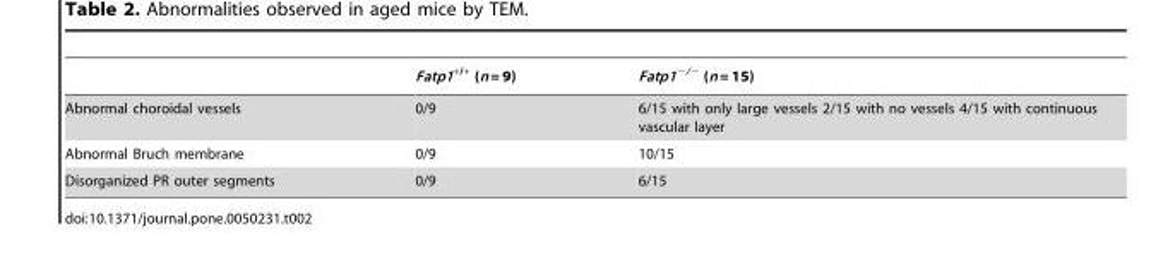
<table><thead><tr><td></td><td>Fatp1<sup>+/+</sup> (n = 9)</td><td>Fatp1<sup>−/−</sup> (n = 15)</td></tr></thead><tbody><tr><td>Abnormal choroidal vessels</td><td>0/9</td><td>6/15 with only large vessels 2/15 with no vessels 4/15 with continuous vascular layer</td></tr><tr><td>Abnormal Bruch membrane</td><td>0/9</td><td>10/15</td></tr><tr><td>Disorganized PR outer segments</td><td>0/9</td><td>6/15</td></tr></tbody></table>